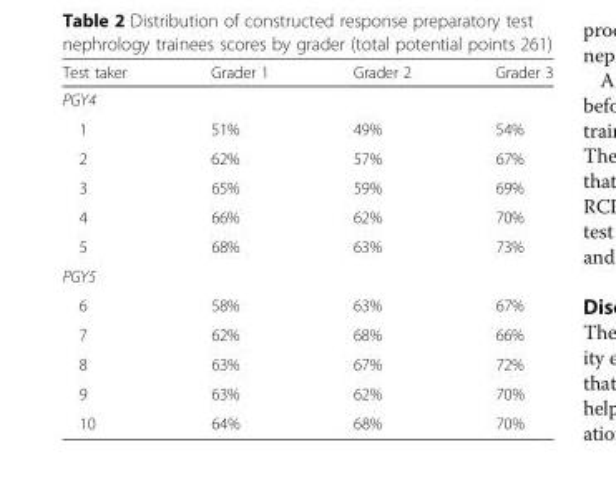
<table><thead><tr><td>Test taker</td><td>Grader 1</td><td>Grader 2</td><td>Grader 3</td></tr></thead><tbody><tr><td colspan="4">PGY4</td></tr><tr><td>1</td><td>51%</td><td>49%</td><td>54%</td></tr><tr><td>2</td><td>62%</td><td>57%</td><td>67%</td></tr><tr><td>3</td><td>65%</td><td>59%</td><td>69%</td></tr><tr><td>4</td><td>66%</td><td>62%</td><td>70%</td></tr><tr><td>5</td><td>68%</td><td>63%</td><td>73%</td></tr><tr><td colspan="4">PGY5</td></tr><tr><td>6</td><td>58%</td><td>63%</td><td>67%</td></tr><tr><td>7</td><td>62%</td><td>68%</td><td>66%</td></tr><tr><td>8</td><td>63%</td><td>67%</td><td>72%</td></tr><tr><td>9</td><td>63%</td><td>62%</td><td>70%</td></tr><tr><td>10</td><td>64%</td><td>68%</td><td>70%</td></tr></tbody></table>